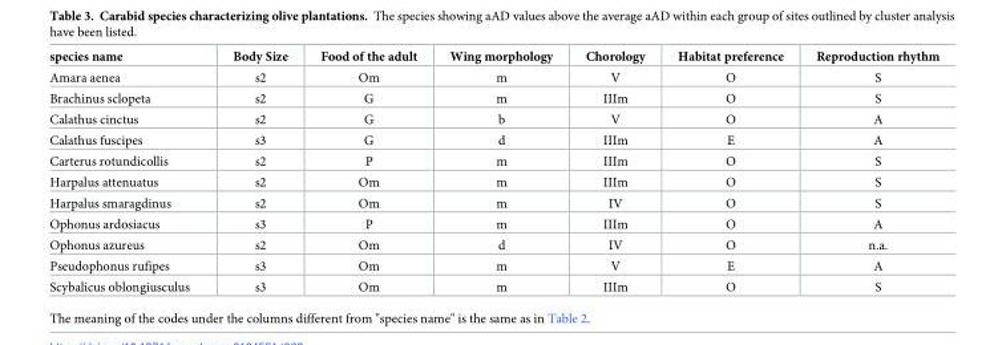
<table><thead><tr><td>species name</td><td>Body Size</td><td>Food of the adult</td><td>Wing morphology</td><td>Chorology</td><td>Habitat preference</td><td>Reproduction rhythm</td></tr></thead><tbody><tr><td>Amara aenea</td><td>s2</td><td>Om</td><td>m</td><td>V</td><td>O</td><td>S</td></tr><tr><td>Brachinus sclopeta</td><td>s2</td><td>G</td><td>m</td><td>IIIm</td><td>O</td><td>S</td></tr><tr><td>Calathus cinctus</td><td>s2</td><td>G</td><td>b</td><td>V</td><td>O</td><td>A</td></tr><tr><td>Calathus fuscipes</td><td>s3</td><td>G</td><td>d</td><td>IIIm</td><td>E</td><td>A</td></tr><tr><td>Carterus rotundicollis</td><td>s2</td><td>P</td><td>m</td><td>IIIm</td><td>O</td><td>S</td></tr><tr><td>Harpalus attenuatus</td><td>s2</td><td>Om</td><td>m</td><td>IIIm</td><td>O</td><td>S</td></tr><tr><td>Harpalus smaragdinus</td><td>s2</td><td>Om</td><td>m</td><td>IV</td><td>O</td><td>S</td></tr><tr><td>Ophonus ardosiacus</td><td>s3</td><td>P</td><td>m</td><td>IIIm</td><td>O</td><td>A</td></tr><tr><td>Ophonus azureus</td><td>s2</td><td>Om</td><td>d</td><td>IV</td><td>O</td><td>n.a.</td></tr><tr><td>Pseudophonus rufipes</td><td>s3</td><td>Om</td><td>m</td><td>V</td><td>E</td><td>A</td></tr><tr><td>Scybalicus oblongiusculus</td><td>s3</td><td>Om</td><td>m</td><td>IIIm</td><td>O</td><td>S</td></tr></tbody></table>